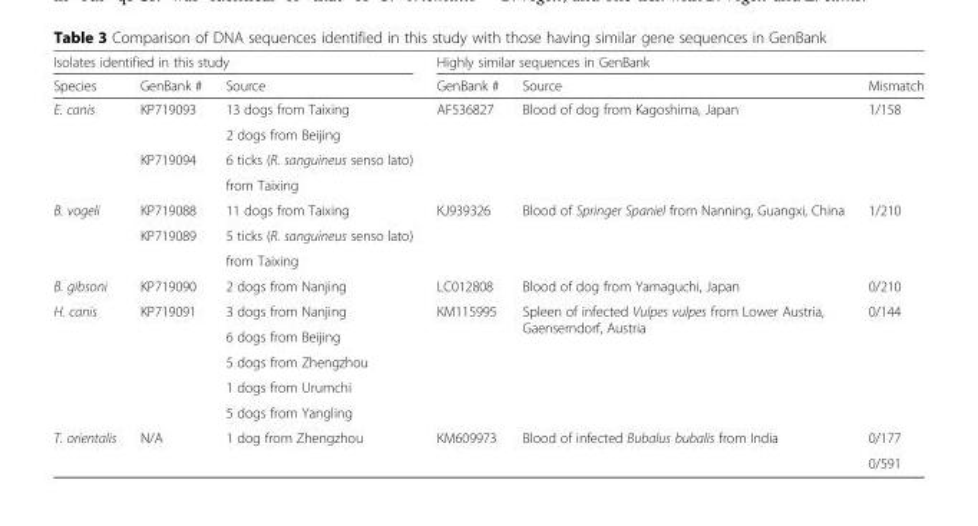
<table><thead><tr><td colspan="3">Isolates identified in this study</td><td colspan="3">Highly similar sequences in GenBank</td></tr><tr><td>Species</td><td>GenBank #</td><td>Source</td><td>GenBank #</td><td>Source</td><td>Mismatch</td></tr></thead><tbody><tr><td rowspan="4">E. canis</td><td rowspan="2">KP719093</td><td>13 dogs from Taixing</td><td rowspan="4">AF536827</td><td rowspan="4">Blood of dog from Kagoshima, Japan</td><td rowspan="4">1/158</td></tr><tr><td>2 dogs from Beijing</td></tr><tr><td rowspan="2">KP719094</td><td>6 ticks (R. sanguineus senso lato)</td></tr><tr><td>from Taixing</td></tr><tr><td rowspan="3">B. vogeli</td><td>KP719088</td><td>11 dogs from Taixing</td><td rowspan="3">KJ939326</td><td rowspan="3">Blood of Springer Spaniel from Nanning, Guangxi, China</td><td rowspan="3">1/210</td></tr><tr><td rowspan="2">KP719089</td><td>5 ticks (R. sanguineus senso lato)</td></tr><tr><td>from Taixing</td></tr><tr><td>B. gibsoni</td><td>KP719090</td><td>2 dogs from Nanjing</td><td>LC012808</td><td>Blood of dog from Yamaguchi, Japan</td><td>0/210</td></tr><tr><td rowspan="5">H. canis</td><td rowspan="2">KP719091</td><td>3 dogs from Nanjing</td><td rowspan="5">KM115995</td><td rowspan="5">Spleen of infected Vulpes vulpes from Lower Austria, Gaenserndorf, Austria</td><td rowspan="5">0/144</td></tr><tr><td>6 dogs from Beijing</td></tr><tr><td rowspan="3"></td><td>5 dogs from Zhengzhou</td></tr><tr><td>1 dogs from Urumchi</td></tr><tr><td>5 dogs from Yangling</td></tr><tr><td rowspan="2">T. orientalis</td><td rowspan="2">N/A</td><td rowspan="2">1 dog from Zhengzhou</td><td rowspan="2">KM609973</td><td rowspan="2">Blood of infected Bubalus bubalis from India</td><td>0/177</td></tr><tr><td>0/591</td></tr></tbody></table>